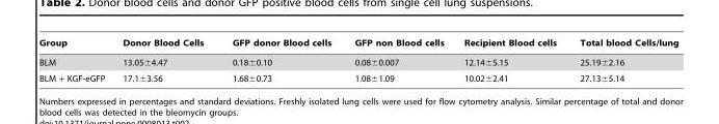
<table><thead><tr><td>Group</td><td>Donor Blood Cells</td><td>GFP donor Blood cells</td><td>GFP non Blood cells</td><td>Recipient Blood cells</td><td>Total blood Cells/lung</td></tr></thead><tbody><tr><td>BLM</td><td>13.05±4.47</td><td>0.18±0.10</td><td>0.08±0.007</td><td>12.14±5.15</td><td>25.19±2.16</td></tr><tr><td>BLM + KGF-eGFP</td><td>17.1±3.56</td><td>1.68±0.73</td><td>1.08±1.09</td><td>10.02±2.41</td><td>27.13±5.14</td></tr></tbody></table>